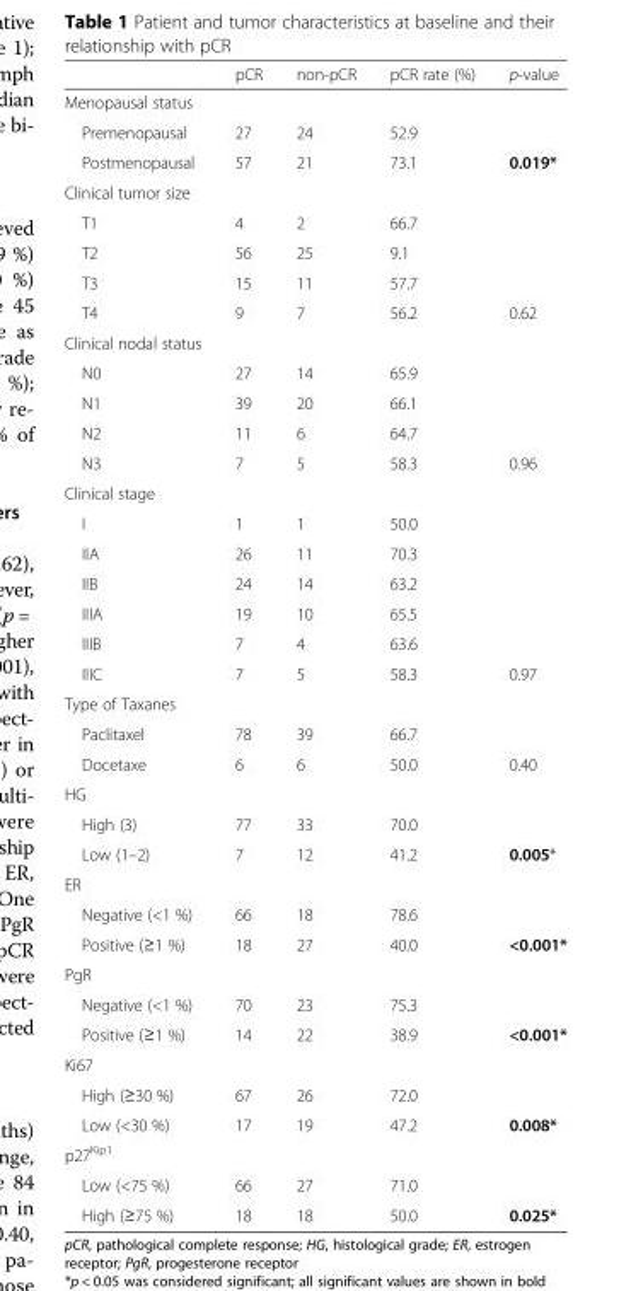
<table><thead><tr><td></td><td>pCR</td><td>non-pCR</td><td>pCR rate (%)</td><td>p-value</td></tr></thead><tbody><tr><td colspan="5">Menopausal status</td></tr><tr><td>Premenopausal</td><td>27</td><td>24</td><td>52.9</td><td></td></tr><tr><td>Postmenopausal</td><td>57</td><td>21</td><td>73.1</td><td>0.019*</td></tr><tr><td colspan="5">Clinical tumor size</td></tr><tr><td>T1</td><td>4</td><td>2</td><td>66.7</td><td></td></tr><tr><td>T2</td><td>56</td><td>25</td><td>9.1</td><td></td></tr><tr><td>T3</td><td>15</td><td>11</td><td>57.7</td><td></td></tr><tr><td>T4</td><td>9</td><td>7</td><td>56.2</td><td>0.62</td></tr><tr><td colspan="5">Clinical nodal status</td></tr><tr><td>N0</td><td>27</td><td>14</td><td>65.9</td><td></td></tr><tr><td>N1</td><td>39</td><td>20</td><td>66.1</td><td></td></tr><tr><td>N2</td><td>11</td><td>6</td><td>64.7</td><td></td></tr><tr><td>N3</td><td>7</td><td>5</td><td>58.3</td><td>0.96</td></tr><tr><td colspan="5">Clinical stage</td></tr><tr><td>I</td><td>1</td><td>1</td><td>50.0</td><td></td></tr><tr><td>IIA</td><td>26</td><td>11</td><td>70.3</td><td></td></tr><tr><td>IIB</td><td>24</td><td>14</td><td>63.2</td><td></td></tr><tr><td>IIIA</td><td>19</td><td>10</td><td>65.5</td><td></td></tr><tr><td>IIIB</td><td>7</td><td>4</td><td>63.6</td><td></td></tr><tr><td>IIIC</td><td>7</td><td>5</td><td>58.3</td><td>0.97</td></tr><tr><td colspan="5">Type of Taxanes</td></tr><tr><td>Paclitaxel</td><td>78</td><td>39</td><td>66.7</td><td></td></tr><tr><td>Docetaxe</td><td>6</td><td>6</td><td>50.0</td><td>0.40</td></tr><tr><td colspan="5">HG</td></tr><tr><td>High (3)</td><td>77</td><td>33</td><td>70.0</td><td></td></tr><tr><td>Low (1–2)</td><td>7</td><td>12</td><td>41.2</td><td>0.005*</td></tr><tr><td colspan="5">ER</td></tr><tr><td>Negative (&lt;1 %)</td><td>66</td><td>18</td><td>78.6</td><td></td></tr><tr><td>Positive (≥1 %)</td><td>18</td><td>27</td><td>40.0</td><td>&lt;0.001*</td></tr><tr><td colspan="5">PgR</td></tr><tr><td>Negative (&lt;1 %)</td><td>70</td><td>23</td><td>75.3</td><td></td></tr><tr><td>Positive (≥1 %)</td><td>14</td><td>22</td><td>38.9</td><td>&lt;0.001*</td></tr><tr><td colspan="5">Ki67</td></tr><tr><td>High (≥30 %)</td><td>67</td><td>26</td><td>72.0</td><td></td></tr><tr><td>Low (&lt;30 %)</td><td>17</td><td>19</td><td>47.2</td><td>0.008*</td></tr><tr><td colspan="5">p27<sup>Kip1</sup></td></tr><tr><td>Low (&lt;75 %)</td><td>66</td><td>27</td><td>71.0</td><td></td></tr><tr><td>High (≥75 %)</td><td>18</td><td>18</td><td>50.0</td><td>0.025*</td></tr></tbody></table>